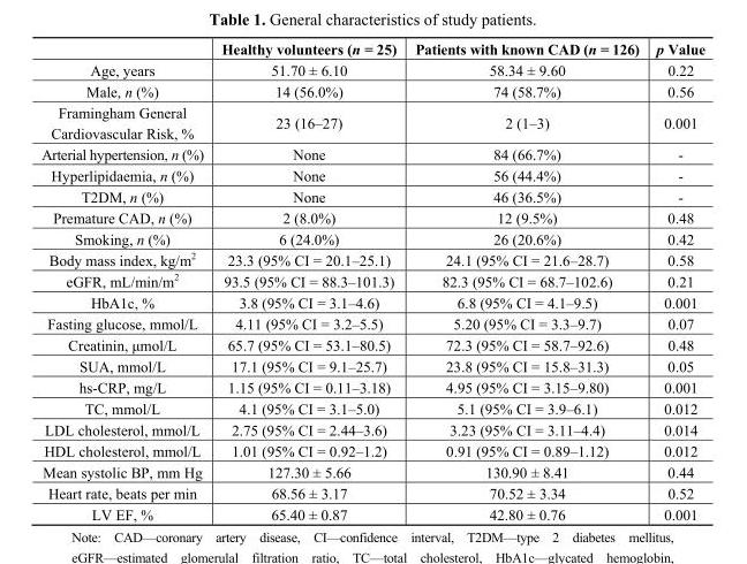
<table><thead><tr><td></td><td>Healthy volunteers (n = 25)</td><td>Patients with known CAD (n = 126)</td><td>p Value</td></tr></thead><tbody><tr><td>Age, years</td><td>51.70 ± 6.10</td><td>58.34 ± 9.60</td><td>0.22</td></tr><tr><td>Male, n (%)</td><td>14 (56.0%)</td><td>74 (58.7%)</td><td>0.56</td></tr><tr><td>Framingham General Cardiovascular Risk, %</td><td>23 (16–27)</td><td>2 (1–3)</td><td>0.001</td></tr><tr><td>Arterial hypertension, n (%)</td><td>None</td><td>84 (66.7%)</td><td>-</td></tr><tr><td>Hyperlipidaemia, n (%)</td><td>None</td><td>56 (44.4%)</td><td>-</td></tr><tr><td>T2DM, n (%)</td><td>None</td><td>46 (36.5%)</td><td>-</td></tr><tr><td>Premature CAD, n (%)</td><td>2 (8.0%)</td><td>12 (9.5%)</td><td>0.48</td></tr><tr><td>Smoking, n (%)</td><td>6 (24.0%)</td><td>26 (20.6%)</td><td>0.42</td></tr><tr><td>Body mass index, kg/m<sup>2</sup></td><td>23.3 (95% CI = 20.1–25.1)</td><td>24.1 (95% CI = 21.6–28.7)</td><td>0.58</td></tr><tr><td>eGFR, mL/min/m<sup>2</sup></td><td>93.5 (95% CI = 88.3–101.3)</td><td>82.3 (95% CI = 68.7–102.6)</td><td>0.21</td></tr><tr><td>HbA1c, %</td><td>3.8 (95% CI = 3.1–4.6)</td><td>6.8 (95% CI = 4.1–9.5)</td><td>0.001</td></tr><tr><td>Fasting glucose, mmol/L</td><td>4.11 (95% CI = 3.2–5.5)</td><td>5.20 (95% CI = 3.3–9.7)</td><td>0.07</td></tr><tr><td>Creatinin, μmol/L</td><td>65.7 (95% CI = 53.1–80.5)</td><td>72.3 (95% CI = 58.7–92.6)</td><td>0.48</td></tr><tr><td>SUA, mmol/L</td><td>17.1 (95% CI = 9.1–25.7)</td><td>23.8 (95% CI = 15.8–31.3)</td><td>0.05</td></tr><tr><td>hs-CRP, mg/L</td><td>1.15 (95% CI = 0.11–3.18)</td><td>4.95 (95% CI = 3.15–9.80)</td><td>0.001</td></tr><tr><td>TC, mmol/L</td><td>4.1 (95% CI = 3.1–5.0)</td><td>5.1 (95% CI = 3.9–6.1)</td><td>0.012</td></tr><tr><td>LDL cholesterol, mmol/L</td><td>2.75 (95% CI = 2.44–3.6)</td><td>3.23 (95% CI = 3.11–4.4)</td><td>0.014</td></tr><tr><td>HDL cholesterol, mmol/L</td><td>1.01 (95% CI = 0.92–1.2)</td><td>0.91 (95% CI = 0.89–1.12)</td><td>0.012</td></tr><tr><td>Mean systolic BP, mm Hg</td><td>127.30 ± 5.66</td><td>130.90 ± 8.41</td><td>0.44</td></tr><tr><td>Heart rate, beats per min</td><td>68.56 ± 3.17</td><td>70.52 ± 3.34</td><td>0.52</td></tr><tr><td>LV EF, %</td><td>65.40 ± 0.87</td><td>42.80 ± 0.76</td><td>0.001</td></tr></tbody></table>